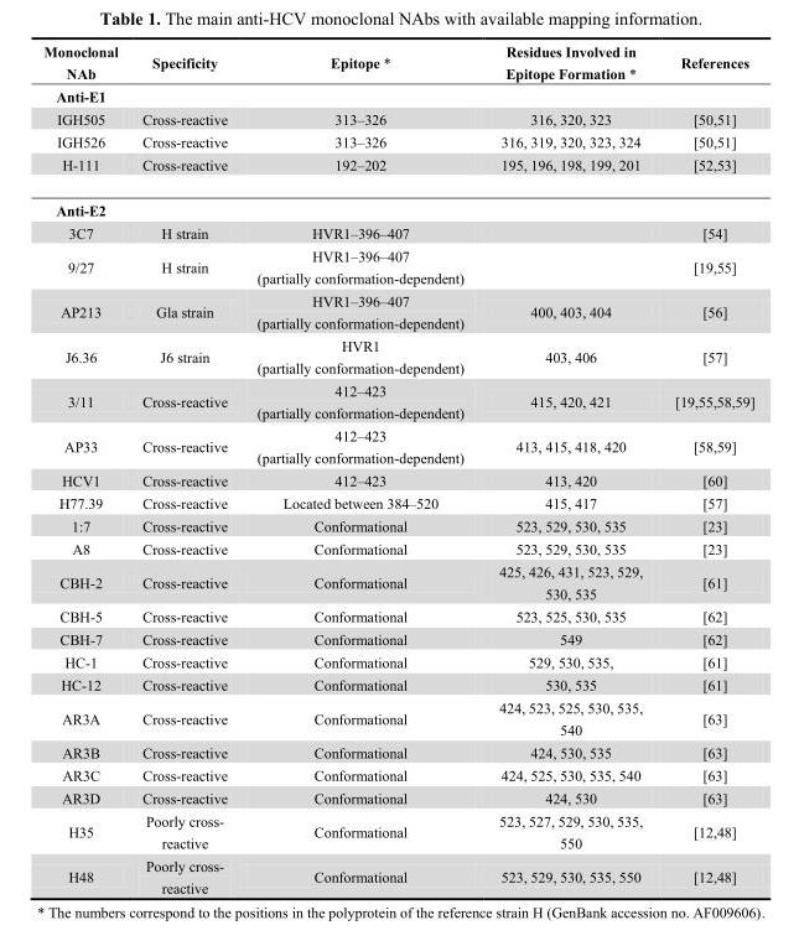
<table><thead><tr><td>Monoclonal NAb</td><td>Specificity</td><td>Epitope *</td><td>Residues Involved in Epitope Formation *</td><td>References</td></tr></thead><tbody><tr><td colspan="5">Anti-E1</td></tr><tr><td>IGH505</td><td>Cross-reactive</td><td>313–326</td><td>316, 320, 323</td><td>[50,51]</td></tr><tr><td>IGH526</td><td>Cross-reactive</td><td>313–326</td><td>316, 319, 320, 323, 324</td><td>[50,51]</td></tr><tr><td>H-111</td><td>Cross-reactive</td><td>192–202</td><td>195, 196, 198, 199, 201</td><td>[52,53]</td></tr><tr><td colspan="5">Anti-E2</td></tr><tr><td>3C7</td><td>H strain</td><td>HVR1–396–407</td><td></td><td>[54]</td></tr><tr><td>9/27</td><td>H strain</td><td>HVR1–396–407 (partially conformation-dependent)</td><td></td><td>[19,55]</td></tr><tr><td>AP213</td><td>Gla strain</td><td>HVR1–396–407 (partially conformation-dependent)</td><td>400, 403, 404</td><td>[56]</td></tr><tr><td>J6.36</td><td>J6 strain</td><td>HVR1 (partially conformation-dependent)</td><td>403, 406</td><td>[57]</td></tr><tr><td>3/11</td><td>Cross-reactive</td><td>412–423 (partially conformation-dependent)</td><td>415, 420, 421</td><td>[19,55,58,59]</td></tr><tr><td>AP33</td><td>Cross-reactive</td><td>412–423 (partially conformation-dependent)</td><td>413, 415, 418, 420</td><td>[58,59]</td></tr><tr><td>HCV1</td><td>Cross-reactive</td><td>412–423</td><td>413, 420</td><td>[60]</td></tr><tr><td>H77.39</td><td>Cross-reactive</td><td>Located between 384–520</td><td>415, 417</td><td>[57]</td></tr><tr><td>1:7</td><td>Cross-reactive</td><td>Conformational</td><td>523, 529, 530, 535</td><td>[23]</td></tr><tr><td>A8</td><td>Cross-reactive</td><td>Conformational</td><td>523, 529, 530, 535</td><td>[23]</td></tr><tr><td>CBH-2</td><td>Cross-reactive</td><td>Conformational</td><td>425, 426, 431, 523, 529, 530, 535</td><td>[61]</td></tr><tr><td>CBH-5</td><td>Cross-reactive</td><td>Conformational</td><td>523, 525, 530, 535</td><td>[62]</td></tr><tr><td>CBH-7</td><td>Cross-reactive</td><td>Conformational</td><td>549</td><td>[62]</td></tr><tr><td>HC-1</td><td>Cross-reactive</td><td>Conformational</td><td>529, 530, 535,</td><td>[61]</td></tr><tr><td>HC-12</td><td>Cross-reactive</td><td>Conformational</td><td>530, 535</td><td>[61]</td></tr><tr><td>AR3A</td><td>Cross-reactive</td><td>Conformational</td><td>424, 523, 525, 530, 535, 540</td><td>[63]</td></tr><tr><td>AR3B</td><td>Cross-reactive</td><td>Conformational</td><td>424, 530, 535</td><td>[63]</td></tr><tr><td>AR3C</td><td>Cross-reactive</td><td>Conformational</td><td>424, 525, 530, 535, 540</td><td>[63]</td></tr><tr><td>AR3D</td><td>Cross-reactive</td><td>Conformational</td><td>424, 530</td><td>[63]</td></tr><tr><td>H35</td><td>Poorly cross- reactive</td><td>Conformational</td><td>523, 527, 529, 530, 535, 550</td><td>[12,48]</td></tr><tr><td>H48</td><td>Poorly cross- reactive</td><td>Conformational</td><td>523, 529, 530, 535, 550</td><td>[12,48]</td></tr></tbody></table>